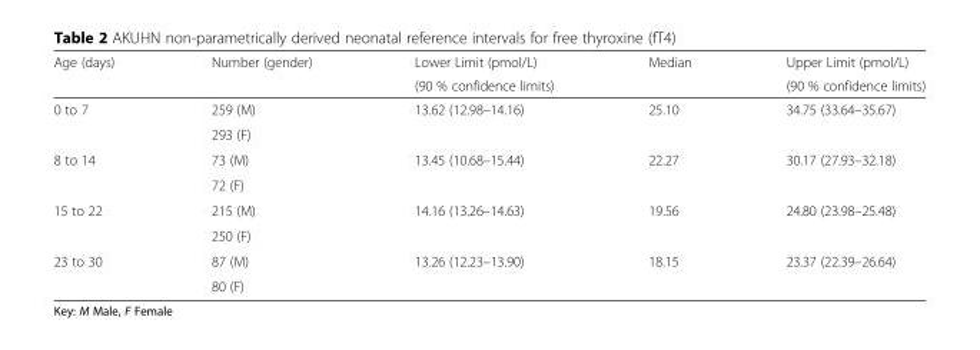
<table><thead><tr><td rowspan="2">Age (days)</td><td rowspan="2">Number (gender)</td><td rowspan="2">Lower Limit (pmol/L) (90 % confidence limits)</td><td rowspan="2">Median</td><td rowspan="2">Upper Limit (pmol/L) (90 % confidence limits)</td></tr><tr></tr></thead><tbody><tr><td rowspan="2">0 to 7</td><td>259 (M)</td><td rowspan="2">13.62 (12.98–14.16)</td><td rowspan="2">25.10</td><td rowspan="2">34.75 (33.64–35.67)</td></tr><tr><td>293 (F)</td></tr><tr><td rowspan="2">8 to 14</td><td>73 (M)</td><td rowspan="2">13.45 (10.68–15.44)</td><td rowspan="2">22.27</td><td rowspan="2">30.17 (27.93–32.18)</td></tr><tr><td>72 (F)</td></tr><tr><td rowspan="2">15 to 22</td><td>215 (M)</td><td rowspan="2">14.16 (13.26–14.63)</td><td rowspan="2">19.56</td><td rowspan="2">24.80 (23.98–25.48)</td></tr><tr><td>250 (F)</td></tr><tr><td rowspan="2">23 to 30</td><td>87 (M)</td><td rowspan="2">13.26 (12.23–13.90)</td><td rowspan="2">18.15</td><td rowspan="2">23.37 (22.39–26.64)</td></tr><tr><td>80 (F)</td></tr></tbody></table>